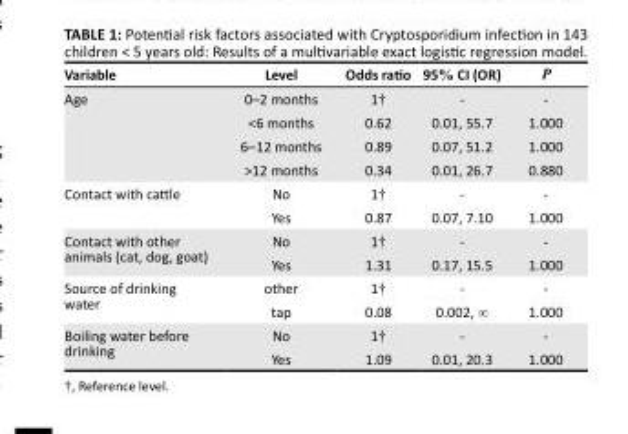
<table><thead><tr><td>Variable</td><td>Level</td><td>Odds ratio</td><td>95% CI (OR)</td><td>P</td></tr></thead><tbody><tr><td rowspan="4">Age</td><td>0–2 months</td><td>1†</td><td>-</td><td>-</td></tr><tr><td>&lt;6 months</td><td>0.62</td><td>0.01, 55.7</td><td>1.000</td></tr><tr><td>6–12 months</td><td>0.89</td><td>0.07, 51.2</td><td>1.000</td></tr><tr><td>&gt;12 months</td><td>0.34</td><td>0.01, 26.7</td><td>0.880</td></tr><tr><td rowspan="2">Contact with cattle</td><td>No</td><td>1†</td><td>-</td><td>-</td></tr><tr><td>Yes</td><td>0.87</td><td>0.07, 7.10</td><td>1.000</td></tr><tr><td rowspan="2">Contact with other animals (cat, dog, goat)</td><td>No</td><td>1†</td><td>-</td><td>-</td></tr><tr><td>Yes</td><td>1.31</td><td>0.17, 15.5</td><td>1.000</td></tr><tr><td rowspan="2">Source of drinking water</td><td>other</td><td>1†</td><td>-</td><td>-</td></tr><tr><td>tap</td><td>0.08</td><td>0.002, ∞</td><td>1.000</td></tr><tr><td rowspan="2">Boiling water before drinking</td><td>No</td><td>1†</td><td>-</td><td>-</td></tr><tr><td>Yes</td><td>1.09</td><td>0.01, 20.3</td><td>1.000</td></tr></tbody></table>